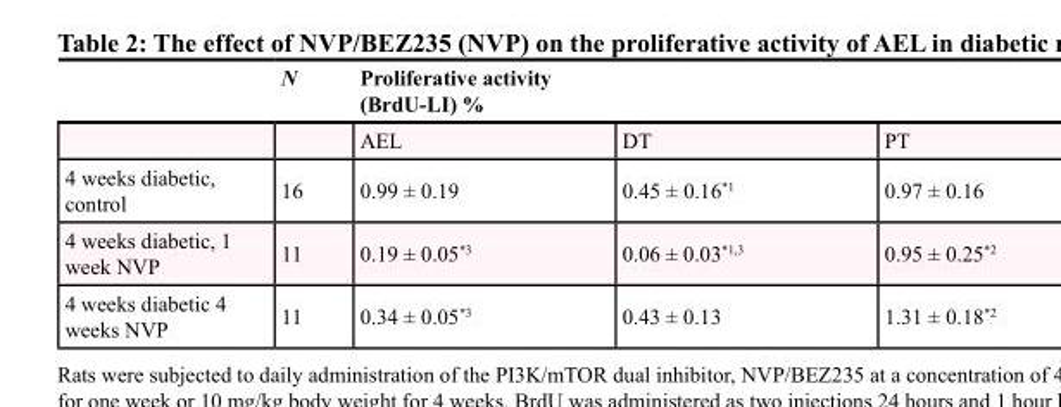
<table><thead><tr><td rowspan="2"></td><td rowspan="2">N</td><td colspan="3">Proliferative activity (BrdU-LI) %</td></tr><tr><td>AEL</td><td>DT</td><td>PT</td></tr></thead><tbody><tr><td>4 weeks diabetic, control</td><td>16</td><td>0.99 ± 0.19</td><td>0.45 ± 0.16*<sup>1</sup></td><td>0.97 ± 0.16</td></tr><tr><td>4 weeks diabetic, 1 week NVP</td><td>11</td><td>0.19 ± 0.05*<sup>3</sup></td><td>0.06 ± 0.03*<sup>1</sup>,<sup>3</sup></td><td>0.95 ± 0.25*<sup>2</sup></td></tr><tr><td>4 weeks diabetic 4 weeks NVP</td><td>11</td><td>0.34 ± 0.05*<sup>3</sup></td><td>0.43 ± 0.13</td><td>1.31 ± 0.18*<sup>2</sup></td></tr></tbody></table>